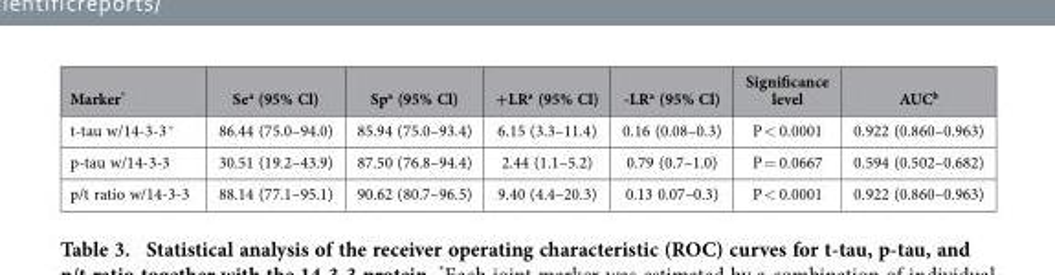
<table><thead><tr><td>Marker*</td><td>Se<sup>a</sup> (95% Cl)</td><td>Sp<sup>a</sup> (95% Cl)</td><td>+LR<sup>a</sup> (95% Cl)</td><td>-LR<sup>a</sup> (95% Cl)</td><td>Significance level</td><td>AUC<sup>b</sup></td></tr></thead><tbody><tr><td>t-tau w/14-3-3+</td><td>86.44 (75.0–94.0)</td><td>85.94 (75.0–93.4)</td><td>6.15 (3.3–11.4)</td><td>0.16 (0.08–0.3)</td><td>P &lt; 0.0001</td><td>0.922 (0.860–0.963)</td></tr><tr><td>p-tau w/14-3-3</td><td>30.51 (19.2–43.9)</td><td>87.50 (76.8–94.4)</td><td>2.44 (1.1–5.2)</td><td>0.79 (0.7–1.0)</td><td>P = 0.0667</td><td>0.594 (0.502–0.682)</td></tr><tr><td>p/t ratio w/14-3-3</td><td>88.14 (77.1–95.1)</td><td>90.62 (80.7–96.5)</td><td>9.40 (4.4–20.3)</td><td>0.13 0.07–0.3)</td><td>P &lt; 0.0001</td><td>0.922 (0.860–0.963)</td></tr></tbody></table>